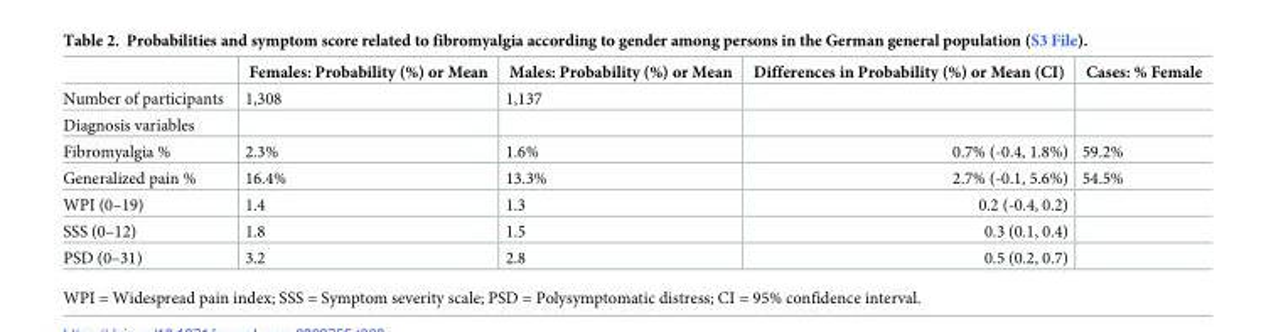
<table><thead><tr><td></td><td>Females: Probability (%) or Mean</td><td>Males: Probability (%) or Mean</td><td>Differences in Probability (%) or Mean (CI)</td><td>Cases: % Female</td></tr></thead><tbody><tr><td>Number of participants</td><td>1,308</td><td>1,137</td><td></td><td></td></tr><tr><td colspan="5">Diagnosis variables</td></tr><tr><td>Fibromyalgia %</td><td>2.3%</td><td>1.6%</td><td>0.7% (-0.4, 1.8%)</td><td>59.2%</td></tr><tr><td>Generalized pain %</td><td>16.4%</td><td>13.3%</td><td>2.7% (-0.1, 5.6%)</td><td>54.5%</td></tr><tr><td>WPI (0–19)</td><td>1.4</td><td>1.3</td><td>0.2 (-0.4, 0.2)</td><td></td></tr><tr><td>SSS (0–12)</td><td>1.8</td><td>1.5</td><td>0.3 (0.1, 0.4)</td><td></td></tr><tr><td>PSD (0–31)</td><td>3.2</td><td>2.8</td><td>0.5 (0.2, 0.7)</td><td></td></tr></tbody></table>